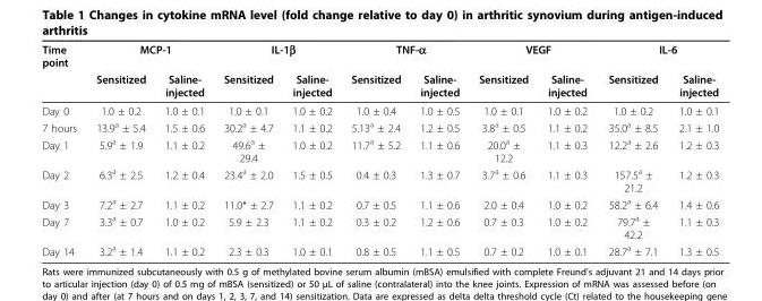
<table><thead><tr><td rowspan="2">Time point</td><td colspan="2">MCP-1</td><td colspan="2">IL-1β</td><td colspan="2">TNF-α</td><td colspan="2">VEGF</td><td colspan="2">IL-6</td></tr><tr><td>Sensitized</td><td>Saline- injected</td><td>Sensitized</td><td>Saline- injected</td><td>Sensitized</td><td>Saline- injected</td><td>Sensitized</td><td>Saline- injected</td><td>Sensitized</td><td>Saline- injected</td></tr></thead><tbody><tr><td>Day 0</td><td>1.0 ± 0.2</td><td>1.0 ± 0.1</td><td>1.0 ± 0.1</td><td>1.0 ± 0.2</td><td>1.0 ± 0.4</td><td>1.0 ± 0.5</td><td>1.0 ± 0.1</td><td>1.0 ± 0.2</td><td>1.0 ± 0.2</td><td>1.0 ± 0.1</td></tr><tr><td>7 hours</td><td>13.9<sup>a</sup> ± 5.4</td><td>1.5 ± 0.6</td><td>30.2<sup>a</sup> ± 4.7</td><td>1.1 ± 0.2</td><td>5.13<sup>a</sup> ± 2.4</td><td>1.2 ± 0.5</td><td>3.8<sup>a</sup> ± 0.5</td><td>1.1 ± 0.2</td><td>35.0<sup>a</sup> ± 8.5</td><td>2.1 ± 1.0</td></tr><tr><td>Day 1</td><td>5.9<sup>a</sup> ± 1.9</td><td>1.1 ± 0.2</td><td>49.6<sup>a</sup> ± 29.4</td><td>1.0 ± 0.2</td><td>11.7<sup>a</sup> ± 5.2</td><td>1.1 ± 0.6</td><td>20.0<sup>a</sup> ± 12.2</td><td>1.1 ± 0.3</td><td>12.2<sup>a</sup> ± 2.6</td><td>1.2 ± 0.3</td></tr><tr><td>Day 2</td><td>6.3<sup>a</sup> ± 2.5</td><td>1.2 ± 0.4</td><td>23.4<sup>a</sup> ± 2.0</td><td>1.5 ± 0.5</td><td>0.4 ± 0.3</td><td>1.3 ± 0.7</td><td>3.7<sup>a</sup> ± 0.6</td><td>1.1 ± 0.3</td><td>157.5<sup>a</sup> ± 21.2</td><td>1.2 ± 0.3</td></tr><tr><td>Day 3</td><td>7.2<sup>a</sup> ± 2.7</td><td>1.1 ± 0.2</td><td>11.0* ± 2.7</td><td>1.1 ± 0.2</td><td>0.7 ± 0.5</td><td>1.1 ± 0.6</td><td>2.0 ± 0.4</td><td>1.0 ± 0.2</td><td>58.2<sup>a</sup> ± 6.4</td><td>1.4 ± 0.6</td></tr><tr><td>Day 7</td><td>3.3<sup>a</sup> ± 0.7</td><td>1.0 ± 0.2</td><td>5.9 ± 2.3</td><td>1.1 ± 0.2</td><td>0.3 ± 0.2</td><td>1.2 ± 0.6</td><td>0.7 ± 0.3</td><td>1.0 ± 0.2</td><td>79.7<sup>a</sup> ± 42.2</td><td>1.1 ± 0.3</td></tr><tr><td>Day 14</td><td>3.2<sup>a</sup> ± 1.4</td><td>1.1 ± 0.2</td><td>2.3 ± 0.3</td><td>1.0 ± 0.1</td><td>0.8 ± 0.5</td><td>1.1 ± 0.5</td><td>0.7 ± 0.2</td><td>1.0 ± 0.1</td><td>28.7<sup>a</sup> ± 7.1</td><td>1.3 ± 0.5</td></tr></tbody></table>